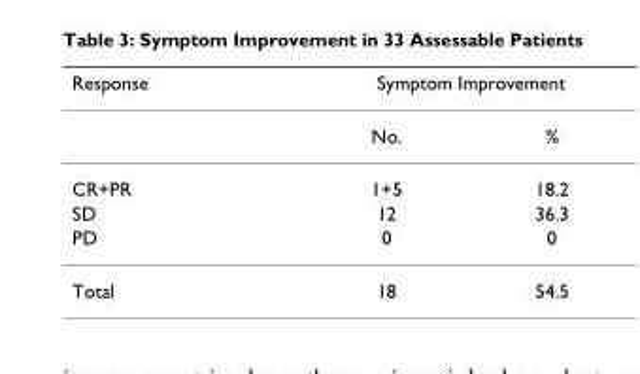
<table><thead><tr><td rowspan="2">Response</td><td colspan="2">Symptom Improvement</td></tr><tr><td>No.</td><td>%</td></tr></thead><tbody><tr><td>CR+PR</td><td>1+5</td><td>18.2</td></tr><tr><td>SD</td><td>12</td><td>36.3</td></tr><tr><td>PD</td><td>0</td><td>0</td></tr><tr><td>Total</td><td>18</td><td>54.5</td></tr></tbody></table>